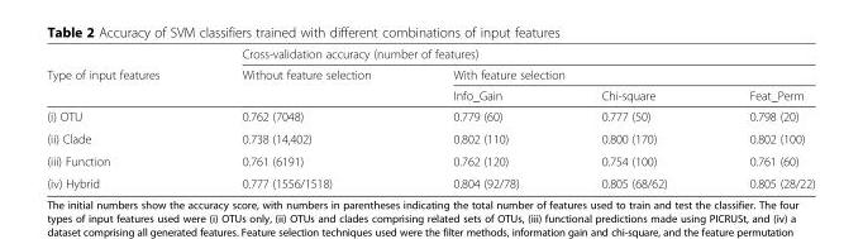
<table><thead><tr><td rowspan="3">Type of input features</td><td colspan="4">Cross-validation accuracy (number of features)</td></tr><tr><td rowspan="2">Without feature selection</td><td colspan="3">With feature selection</td></tr><tr><td>Info_Gain</td><td>Chi-square</td><td>Feat_Perm</td></tr></thead><tbody><tr><td>(i) OTU</td><td>0.762 (7048)</td><td>0.779 (60)</td><td>0.777 (50)</td><td>0.798 (20)</td></tr><tr><td>(ii) Clade</td><td>0.738 (14,402)</td><td>0.802 (110)</td><td>0.800 (170)</td><td>0.802 (100)</td></tr><tr><td>(iii) Function</td><td>0.761 (6191)</td><td>0.762 (120)</td><td>0.754 (100)</td><td>0.761 (60)</td></tr><tr><td>(iv) Hybrid</td><td>0.777 (1556/1518)</td><td>0.804 (92/78)</td><td>0.805 (68/62)</td><td>0.805 (28/22)</td></tr></tbody></table>